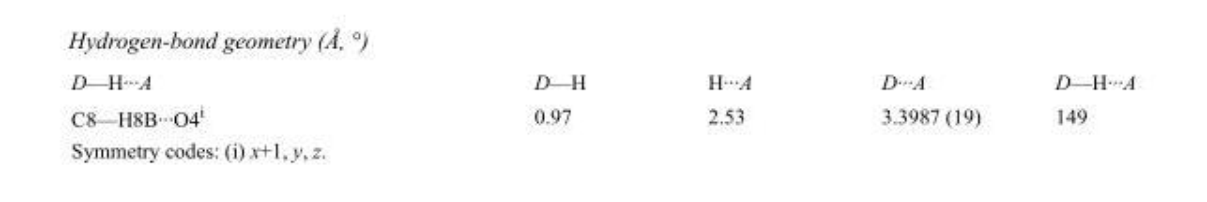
<table><tbody><tr><td>D—H···A</td><td>D—H</td><td>H···A</td><td>D···A</td><td>D—H···A</td></tr><tr><td>C8—H8B···O4<sup>i</sup></td><td>0.97</td><td>2.53</td><td>3.3987 (19)</td><td>149</td></tr></tbody></table>